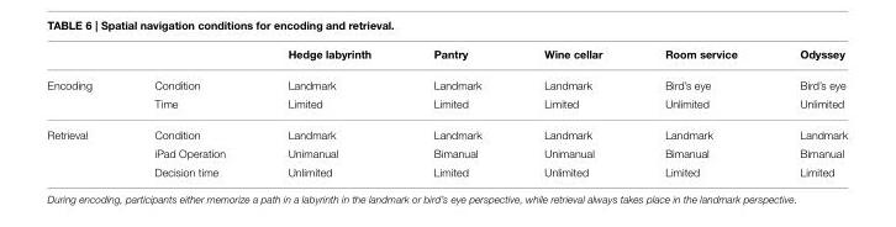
<table><thead><tr><td></td><td></td><td>Hedge labyrinth</td><td>Pantry</td><td>Wine cellar</td><td>Room service</td><td>Odyssey</td></tr></thead><tbody><tr><td rowspan="2">Encoding</td><td>Condition</td><td>Landmark</td><td>Landmark</td><td>Landmark</td><td>Bird’s eye</td><td>Bird’s eye</td></tr><tr><td>Time</td><td>Limited</td><td>Limited</td><td>Limited</td><td>Unlimited</td><td>Unlimited</td></tr><tr><td rowspan="3">Retrieval</td><td>Condition</td><td>Landmark</td><td>Landmark</td><td>Landmark</td><td>Landmark</td><td>Landmark</td></tr><tr><td>iPad Operation</td><td>Unimanual</td><td>Bimanual</td><td>Unimanual</td><td>Bimanual</td><td>Bimanual</td></tr><tr><td>Decision time</td><td>Unlimited</td><td>Limited</td><td>Unlimited</td><td>Limited</td><td>Limited</td></tr></tbody></table>